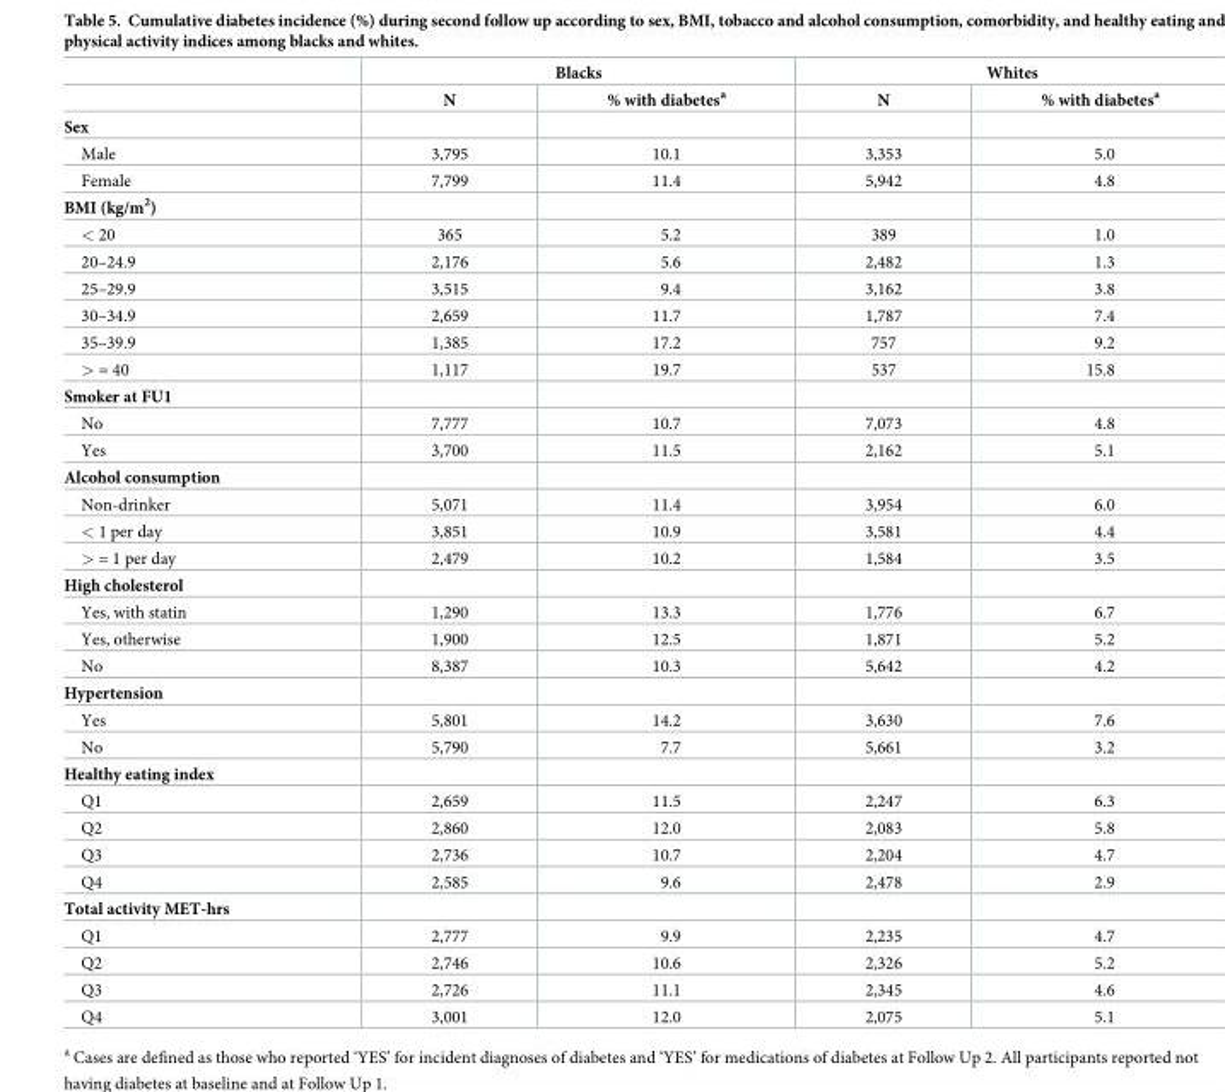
<table><thead><tr><td rowspan="2"></td><td colspan="2">Blacks</td><td colspan="2">Whites</td></tr><tr><td>N</td><td>% with diabetes<sup>a</sup></td><td>N</td><td>% with diabetes<sup>a</sup></td></tr></thead><tbody><tr><td colspan="5">Sex</td></tr><tr><td>Male</td><td>3,795</td><td>10.1</td><td>3,353</td><td>5.0</td></tr><tr><td>Female</td><td>7,799</td><td>11.4</td><td>5,942</td><td>4.8</td></tr><tr><td colspan="5">BMI (kg/m<sup>2</sup>)</td></tr><tr><td>&lt; 20</td><td>365</td><td>5.2</td><td>389</td><td>1.0</td></tr><tr><td>20–24.9</td><td>2,176</td><td>5.6</td><td>2,482</td><td>1.3</td></tr><tr><td>25–29.9</td><td>3,515</td><td>9.4</td><td>3,162</td><td>3.8</td></tr><tr><td>30–34.9</td><td>2,659</td><td>11.7</td><td>1,787</td><td>7.4</td></tr><tr><td>35–39.9</td><td>1,385</td><td>17.2</td><td>757</td><td>9.2</td></tr><tr><td>&gt; = 40</td><td>1,117</td><td>19.7</td><td>537</td><td>15.8</td></tr><tr><td colspan="5">Smoker at FU1</td></tr><tr><td>No</td><td>7,777</td><td>10.7</td><td>7,073</td><td>4.8</td></tr><tr><td>Yes</td><td>3,700</td><td>11.5</td><td>2,162</td><td>5.1</td></tr><tr><td colspan="5">Alcohol consumption</td></tr><tr><td>Non-drinker</td><td>5,071</td><td>11.4</td><td>3,954</td><td>6.0</td></tr><tr><td>&lt; 1 per day</td><td>3,851</td><td>10.9</td><td>3,581</td><td>4.4</td></tr><tr><td>&gt; = 1 per day</td><td>2,479</td><td>10.2</td><td>1,584</td><td>3.5</td></tr><tr><td colspan="5">High cholesterol</td></tr><tr><td>Yes, with statin</td><td>1,290</td><td>13.3</td><td>1,776</td><td>6.7</td></tr><tr><td>Yes, otherwise</td><td>1,900</td><td>12.5</td><td>1,871</td><td>5.2</td></tr><tr><td>No</td><td>8,387</td><td>10.3</td><td>5,642</td><td>4.2</td></tr><tr><td colspan="5">Hypertension</td></tr><tr><td>Yes</td><td>5,801</td><td>14.2</td><td>3,630</td><td>7.6</td></tr><tr><td>No</td><td>5,790</td><td>7.7</td><td>5,661</td><td>3.2</td></tr><tr><td colspan="5">Healthy eating index</td></tr><tr><td>Q1</td><td>2,659</td><td>11.5</td><td>2,247</td><td>6.3</td></tr><tr><td>Q2</td><td>2,860</td><td>12.0</td><td>2,083</td><td>5.8</td></tr><tr><td>Q3</td><td>2,736</td><td>10.7</td><td>2,204</td><td>4.7</td></tr><tr><td>Q4</td><td>2,585</td><td>9.6</td><td>2,478</td><td>2.9</td></tr><tr><td colspan="5">Total activity MET-hrs</td></tr><tr><td>Q1</td><td>2,777</td><td>9.9</td><td>2,235</td><td>4.7</td></tr><tr><td>Q2</td><td>2,746</td><td>10.6</td><td>2,326</td><td>5.2</td></tr><tr><td>Q3</td><td>2,726</td><td>11.1</td><td>2,345</td><td>4.6</td></tr><tr><td>Q4</td><td>3,001</td><td>12.0</td><td>2,075</td><td>5.1</td></tr></tbody></table>